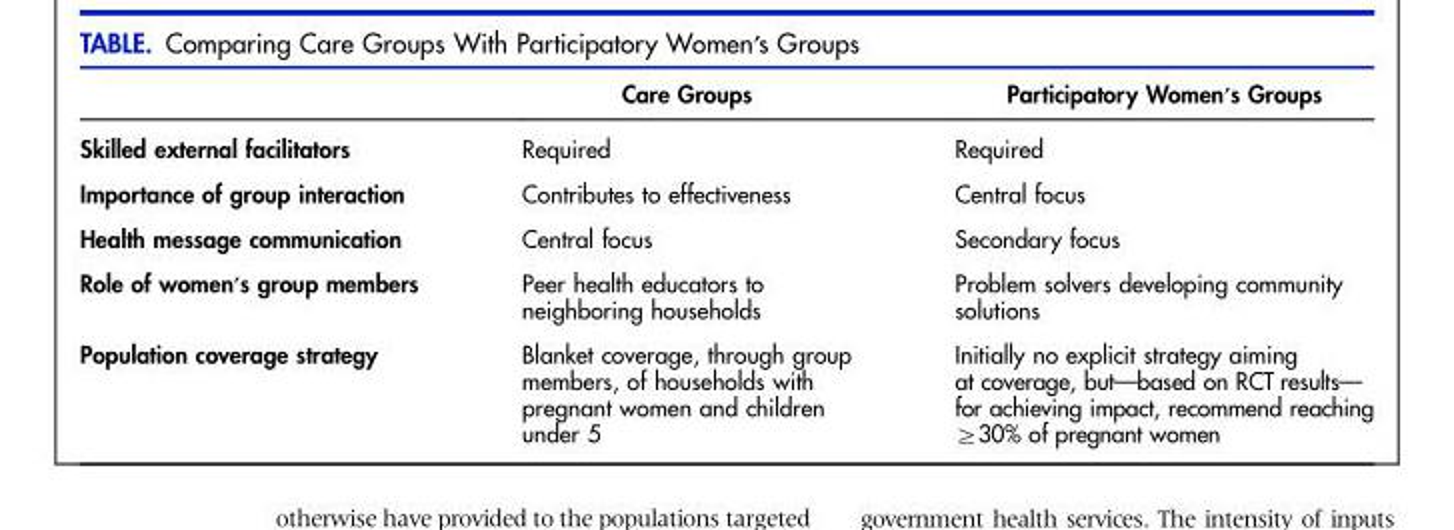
<table><thead><tr><td></td><td>Care Groups</td><td>Participatory Women’s Groups</td></tr></thead><tbody><tr><td>Skilled external facilitators</td><td>Required</td><td>Required</td></tr><tr><td>Importance of group interaction</td><td>Contributes to effectiveness</td><td>Central focus</td></tr><tr><td>Health message communication</td><td>Central focus</td><td>Secondary focus</td></tr><tr><td>Role of women’s group members</td><td>Peer health educators to neighboring households</td><td>Problem solvers developing community solutions</td></tr><tr><td>Population coverage strategy</td><td>Blanket coverage, through group members, of households with pregnant women and children under 5</td><td>Initially no explicit strategy aiming at coverage, but—based on RCT results— for achieving impact, recommend reaching ≥30% of pregnant women</td></tr></tbody></table>